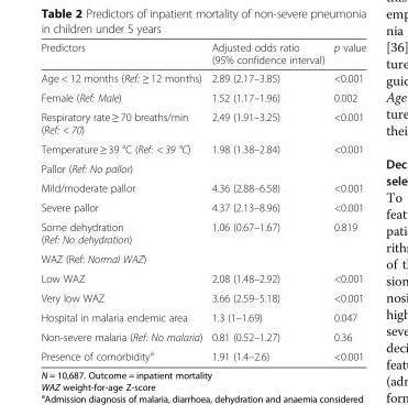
<table><thead><tr><td>Predictors</td><td>Adjusted odds ratio (95% confidence interval)</td><td>p value</td></tr></thead><tbody><tr><td>Age &lt; 12 months (Ref: ≥ 12 months)</td><td>2.89 (2.17–3.85)</td><td>&lt;0.001</td></tr><tr><td>Female (Ref: Male)</td><td>1.52 (1.17–1.96)</td><td>0.002</td></tr><tr><td>Respiratory rate ≥ 70 breaths/min (Ref: &lt; 70)</td><td>2.49 (1.91–3.25)</td><td>&lt;0.001</td></tr><tr><td>Temperature ≥ 39 °C (Ref: &lt; 39 °C)</td><td>1.98 (1.38–2.84)</td><td>&lt;0.001</td></tr><tr><td colspan="3">Pallor (Ref: No pallor)</td></tr><tr><td>Mild/moderate pallor</td><td>4.36 (2.88–6.58)</td><td>&lt;0.001</td></tr><tr><td>Severe pallor</td><td>4.37 (2.13–8.96)</td><td>&lt;0.001</td></tr><tr><td>Some dehydration (Ref: No dehydration)</td><td>1.06 (0.67–1.67)</td><td>0.819</td></tr><tr><td colspan="3">WAZ (Ref: Normal WAZ)</td></tr><tr><td>Low WAZ</td><td>2.08 (1.48–2.92)</td><td>&lt;0.001</td></tr><tr><td>Very low WAZ</td><td>3.66 (2.59–5.18)</td><td>&lt;0.001</td></tr><tr><td>Hospital in malaria endemic area</td><td>1.3 (1–1.69)</td><td>0.047</td></tr><tr><td>Non-severe malaria (Ref: No malaria)</td><td>0.81 (0.52–1.27)</td><td>0.36</td></tr><tr><td>Presence of comorbidity<sup>a</sup></td><td>1.91 (1.4–2.6)</td><td>&lt;0.001</td></tr></tbody></table>